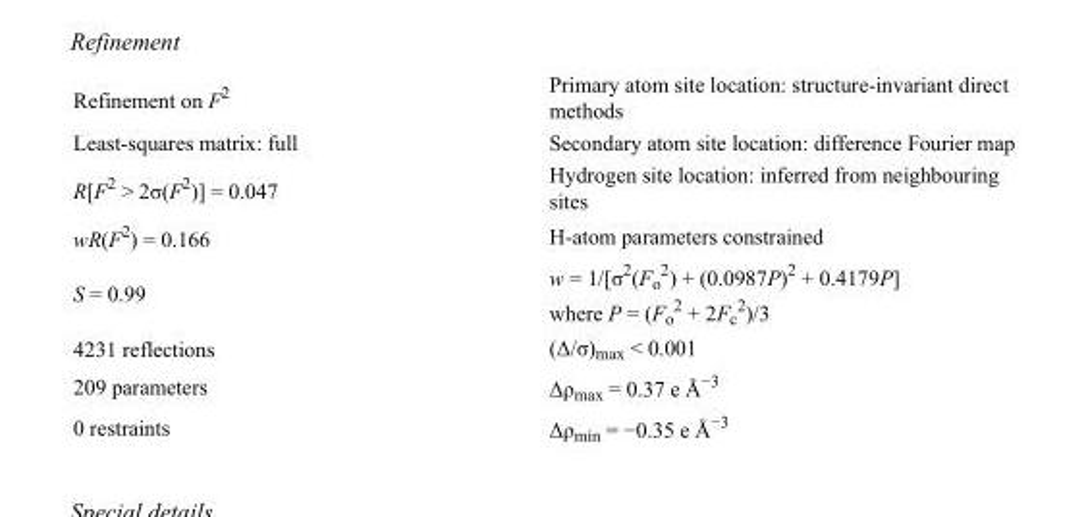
<table><tbody><tr><td>Refinement on F<sup>2</sup></td><td>Primary atom site location: structure-invariant direct methods</td></tr><tr><td>Least-squares matrix: full</td><td>Secondary atom site location: difference Fourier map</td></tr><tr><td>R[F<sup>2</sup> &gt; 2σ(F<sup>2</sup>)] = 0.047</td><td>Hydrogen site location: inferred from neighbouring sites</td></tr><tr><td>wR(F<sup>2</sup>) = 0.166</td><td>H-atom parameters constrained</td></tr><tr><td>S = 0.99</td><td>w = 1/[σ<sup>2</sup>(F<sub>o</sub> <sup>2</sup>) + (0.0987P)<sup>2</sup> + 0.4179P] where P = (F<sub>o</sub> <sup>2</sup> + 2F<sub>c</sub> <sup>2</sup>)/3</td></tr><tr><td>4231 reflections</td><td>(Δ/σ)<sub>max</sub> &lt; 0.001</td></tr><tr><td>209 parameters</td><td>Δρ<sub>max</sub> = 0.37 e Å<sup>−3</sup></td></tr><tr><td>0 restraints</td><td>Δρ<sub>min</sub> = −0.35 e Å<sup>−3</sup></td></tr></tbody></table>